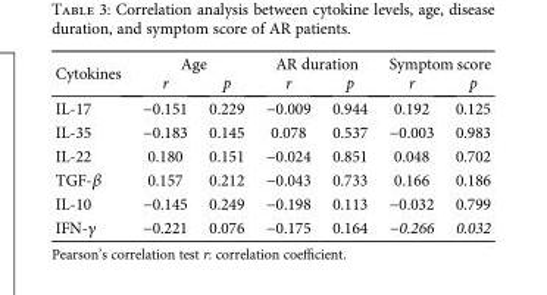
<table><thead><tr><td rowspan="2">Cytokines</td><td colspan="2">Age</td><td colspan="2">AR duration</td><td colspan="2">Symptom score</td></tr><tr><td>r</td><td>p</td><td>r</td><td>p</td><td>r</td><td>p</td></tr></thead><tbody><tr><td>IL-17</td><td>−0.151</td><td>0.229</td><td>−0.009</td><td>0.944</td><td>0.192</td><td>0.125</td></tr><tr><td>IL-35</td><td>−0.183</td><td>0.145</td><td>0.078</td><td>0.537</td><td>−0.003</td><td>0.983</td></tr><tr><td>IL-22</td><td>0.180</td><td>0.151</td><td>−0.024</td><td>0.851</td><td>0.048</td><td>0.702</td></tr><tr><td>TGF-β</td><td>0.157</td><td>0.212</td><td>−0.043</td><td>0.733</td><td>0.166</td><td>0.186</td></tr><tr><td>IL-10</td><td>−0.145</td><td>0.249</td><td>−0.198</td><td>0.113</td><td>−0.032</td><td>0.799</td></tr><tr><td>IFN-γ</td><td>−0.221</td><td>0.076</td><td>−0.175</td><td>0.164</td><td>−0.266</td><td>0.032</td></tr></tbody></table>